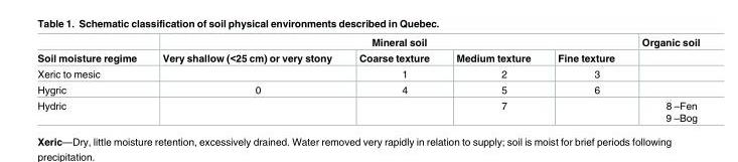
<table><thead><tr><td rowspan="2">Soil moisture regime</td><td colspan="4">Mineral soil</td><td rowspan="2">Organic soil</td></tr><tr><td>Very shallow (&lt;25 cm) or very stony</td><td>Coarse texture</td><td>Medium texture</td><td>Fine texture</td></tr></thead><tbody><tr><td>Xeric to mesic</td><td></td><td>1</td><td>2</td><td>3</td><td></td></tr><tr><td>Hygric</td><td>0</td><td>4</td><td>5</td><td>6</td><td></td></tr><tr><td>Hydric</td><td></td><td></td><td>7</td><td></td><td>8 –Fen 9 –Bog</td></tr></tbody></table>